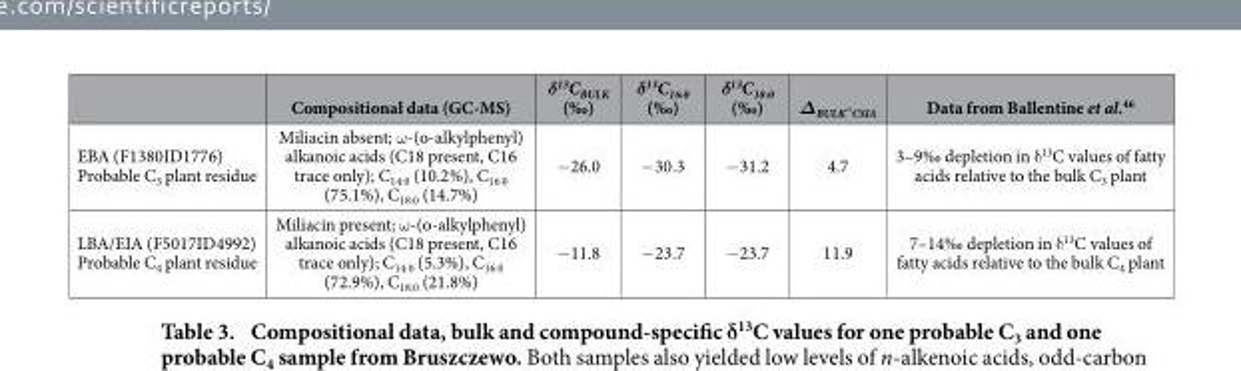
<table><thead><tr><td></td><td>Compositional data (GC-MS)</td><td>δ<sup>13</sup>C<sub>BULK</sub> (‰)</td><td>δ<sup>13</sup>C<sub>16:0</sub> (‰)</td><td>δ<sup>13</sup>C<sub>18:0</sub> (‰)</td><td>Δ<sub>BULK</sub>-<sub>CSIA</sub></td><td>Data from Ballentine et al.<sup>46</sup></td></tr></thead><tbody><tr><td>EBA (F1380ID1776) Probable C<sub>3</sub> plant residue</td><td>Miliacin absent; ω -(o-alkylphenyl) alkanoic acids (C18 present, C16 trace only); C<sub>14:0</sub> (10.2%), C<sub>16:0</sub> (75.1%), C<sub>18:0</sub> (14.7%)</td><td>− 26.0</td><td>− 30.3</td><td>− 31.2</td><td>4.7</td><td>3–9‰ depletion in δ <sup>13</sup>C values of fatty acids relative to the bulk C<sub>3</sub> plant</td></tr><tr><td>LBA/EIA (F5017ID4992) Probable C<sub>4</sub> plant residue</td><td>Miliacin present; ω -(o-alkylphenyl) alkanoic acids (C18 present, C16 trace only); C<sub>14:0</sub> (5.3%), C<sub>16:0</sub> (72.9%), C<sub>18:0</sub> (21.8%)</td><td>− 11.8</td><td>− 23.7</td><td>− 23.7</td><td>11.9</td><td>7–14‰ depletion in δ <sup>13</sup>C values of fatty acids relative to the bulk C<sub>4</sub> plant</td></tr></tbody></table>